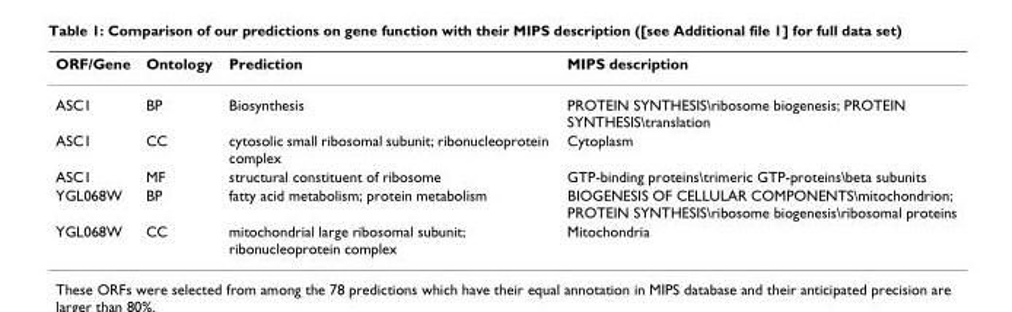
<table><thead><tr><td>ORF/Gene</td><td>Ontology</td><td>Prediction</td><td>MIPS description</td></tr></thead><tbody><tr><td>ASC1</td><td>BP</td><td>Biosynthesis</td><td>PROTEIN SYNTHESIS\ribosome biogenesis; PROTEIN SYNTHESIS\translation</td></tr><tr><td>ASC1</td><td>CC</td><td>cytosolic small ribosomal subunit; ribonucleoprotein complex</td><td>Cytoplasm</td></tr><tr><td>ASC1</td><td>MF</td><td>structural constituent of ribosome</td><td>GTP-binding proteins\trimeric GTP-proteins\beta subunits</td></tr><tr><td>YGL068W</td><td>BP</td><td>fatty acid metabolism; protein metabolism</td><td>BIOGENESIS OF CELLULAR COMPONENTS\mitochondrion; PROTEIN SYNTHESIS\ribosome biogenesis\ribosomal proteins</td></tr><tr><td>YGL068W</td><td>CC</td><td>mitochondrial large ribosomal subunit; ribonucleoprotein complex</td><td>Mitochondria</td></tr></tbody></table>